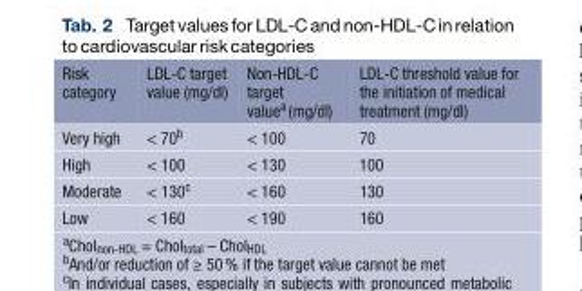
<table><thead><tr><td>Risk category</td><td>LDL-C target value (mg/dl)</td><td>Non-HDL-C target value<sup>a</sup>(mg/dl)</td><td>LDL-C threshold value for the initiation of medical treatment (mg/dl)</td></tr></thead><tbody><tr><td>Very high</td><td>&lt; 70<sup>b</sup></td><td>&lt; 100</td><td>70</td></tr><tr><td>High</td><td>&lt; 100</td><td>&lt; 130</td><td>100</td></tr><tr><td>Moderate</td><td>&lt; 130<sup>c</sup></td><td>&lt; 160</td><td>130</td></tr><tr><td>Low</td><td>&lt; 160</td><td>&lt; 190</td><td>160</td></tr></tbody></table>